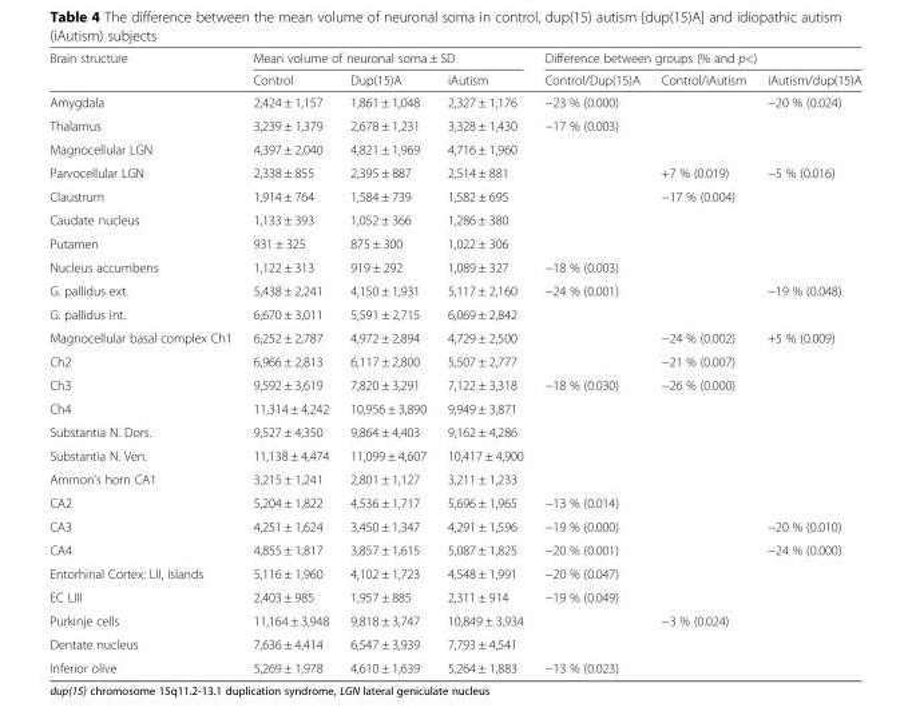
<table><thead><tr><td rowspan="2">Brain structure</td><td colspan="3">Mean volume of neuronal soma ± SD</td><td colspan="3">Difference between groups (% and p&lt;)</td></tr><tr><td>Control</td><td>Dup(15)A</td><td>iAutism</td><td>Control/Dup(15)A</td><td>Control/iAutism</td><td>iAutism/dup(15)A</td></tr></thead><tbody><tr><td>Amygdala</td><td>2,424 ± 1,157</td><td>1,861 ± 1,048</td><td>2,327 ± 1,176</td><td>−23 % (0.000)</td><td></td><td>−20 % (0.024)</td></tr><tr><td>Thalamus</td><td>3,239 ± 1,379</td><td>2,678 ± 1,231</td><td>3,328 ± 1,430</td><td>−17 % (0.003)</td><td></td><td></td></tr><tr><td>Magnocellular LGN</td><td>4,397 ± 2,040</td><td>4,821 ± 1,969</td><td>4,716 ± 1,960</td><td></td><td></td><td></td></tr><tr><td>Parvocellular LGN</td><td>2,338 ± 855</td><td>2,395 ± 887</td><td>2,514 ± 881</td><td></td><td>+7 % (0.019)</td><td>−5 % (0.016)</td></tr><tr><td>Claustrum</td><td>1,914 ± 764</td><td>1,584 ± 739</td><td>1,582 ± 695</td><td></td><td>−17 % (0.004)</td><td></td></tr><tr><td>Caudate nucleus</td><td>1,133 ± 393</td><td>1,052 ± 366</td><td>1,286 ± 380</td><td></td><td></td><td></td></tr><tr><td>Putamen</td><td>931 ± 325</td><td>875 ± 300</td><td>1,022 ± 306</td><td></td><td></td><td></td></tr><tr><td>Nucleus accumbens</td><td>1,122 ± 313</td><td>919 ± 292</td><td>1,089 ± 327</td><td>−18 % (0.003)</td><td></td><td></td></tr><tr><td>G. pallidus ext.</td><td>5,438 ± 2,241</td><td>4,150 ± 1,931</td><td>5,117 ± 2,160</td><td>−24 % (0.001)</td><td></td><td>−19 % (0.048)</td></tr><tr><td>G. pallidus int.</td><td>6,670 ± 3,011</td><td>5,591 ± 2,715</td><td>6,069 ± 2,842</td><td></td><td></td><td></td></tr><tr><td>Magnocellular basal complex Ch1</td><td>6,252 ± 2,787</td><td>4,972 ± 2,894</td><td>4,729 ± 2,500</td><td></td><td>−24 % (0.002)</td><td>+5 % (0.009)</td></tr><tr><td>Ch2</td><td>6,966 ± 2,813</td><td>6,117 ± 2,800</td><td>5,507 ± 2,777</td><td></td><td>−21 % (0.007)</td><td></td></tr><tr><td>Ch3</td><td>9,592 ± 3,619</td><td>7,820 ± 3,291</td><td>7,122 ± 3,318</td><td>−18 % (0.030)</td><td>−26 % (0.000)</td><td></td></tr><tr><td>Ch4</td><td>11,314 ± 4,242</td><td>10,956 ± 3,890</td><td>9,949 ± 3,871</td><td></td><td></td><td></td></tr><tr><td>Substantia N. Dors.</td><td>9,527 ± 4,350</td><td>9,864 ± 4,403</td><td>9,162 ± 4,286</td><td></td><td></td><td></td></tr><tr><td>Substantia N. Ven.</td><td>11,138 ± 4,474</td><td>11,099 ± 4,607</td><td>10,417 ± 4,900</td><td></td><td></td><td></td></tr><tr><td>Ammon’s horn CA1</td><td>3,215 ± 1,241</td><td>2,801 ± 1,127</td><td>3,211 ± 1,233</td><td></td><td></td><td></td></tr><tr><td>CA2</td><td>5,204 ± 1,822</td><td>4,536 ± 1,717</td><td>5,696 ± 1,965</td><td>−13 % (0.014)</td><td></td><td></td></tr><tr><td>CA3</td><td>4,251 ± 1,624</td><td>3,450 ± 1,347</td><td>4,291 ± 1,596</td><td>−19 % (0.000)</td><td></td><td>−20 % (0.010)</td></tr><tr><td>CA4</td><td>4,855 ± 1,817</td><td>3,857 ± 1,615</td><td>5,087 ± 1,825</td><td>−20 % (0.001)</td><td></td><td>−24 % (0.000)</td></tr><tr><td>Entorhinal Cortex: LII, Islands</td><td>5,116 ± 1,960</td><td>4,102 ± 1,723</td><td>4,548 ± 1,991</td><td>−20 % (0.047)</td><td></td><td></td></tr><tr><td>EC LIII</td><td>2,403 ± 985</td><td>1,957 ± 885</td><td>2,311 ± 914</td><td>−19 % (0.049)</td><td></td><td></td></tr><tr><td>Purkinje cells</td><td>11,164 ± 3,948</td><td>9,818 ± 3,747</td><td>10,849 ± 3,934</td><td></td><td>−3 % (0.024)</td><td></td></tr><tr><td>Dentate nucleus</td><td>7,636 ± 4,414</td><td>6,547 ± 3,939</td><td>7,793 ± 4,541</td><td></td><td></td><td></td></tr><tr><td>Inferior olive</td><td>5,269 ± 1,978</td><td>4,610 ± 1,639</td><td>5,264 ± 1,883</td><td>−13 % (0.023)</td><td></td><td></td></tr></tbody></table>